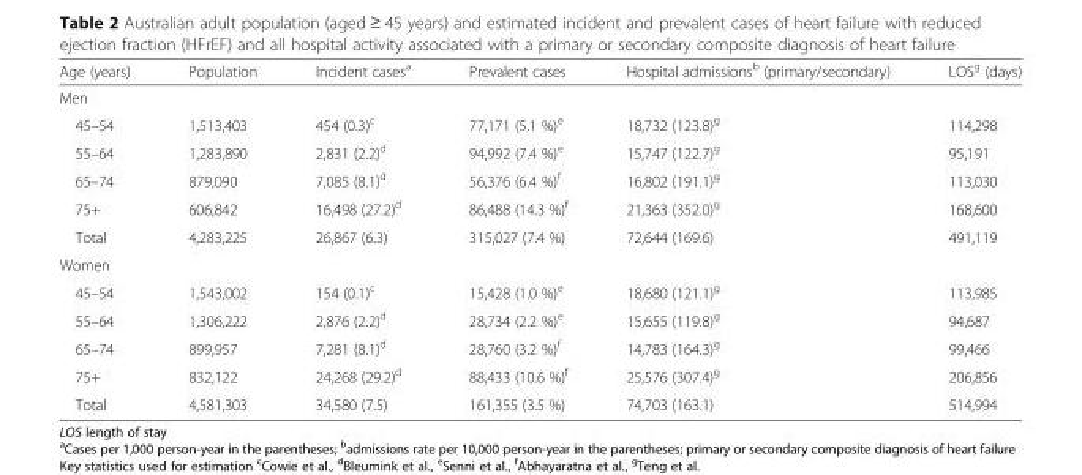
<table><thead><tr><td>Age (years)</td><td>Population</td><td>Incident cases<sup>a</sup></td><td>Prevalent cases</td><td>Hospital admissions<sup>b</sup> (primary/secondary)</td><td>LOS<sup>g</sup> (days)</td></tr></thead><tbody><tr><td colspan="6">Men</td></tr><tr><td>45–54</td><td>1,513,403</td><td>454 (0.3)<sup>c</sup></td><td>77,171 (5.1 %)<sup>e</sup></td><td>18,732 (123.8)<sup>g</sup></td><td>114,298</td></tr><tr><td>55–64</td><td>1,283,890</td><td>2,831 (2.2)<sup>d</sup></td><td>94,992 (7.4 %)<sup>e</sup></td><td>15,747 (122.7)<sup>g</sup></td><td>95,191</td></tr><tr><td>65–74</td><td>879,090</td><td>7,085 (8.1)<sup>d</sup></td><td>56,376 (6.4 %)<sup>f</sup></td><td>16,802 (191.1)<sup>g</sup></td><td>113,030</td></tr><tr><td>75+</td><td>606,842</td><td>16,498 (27.2)<sup>d</sup></td><td>86,488 (14.3 %)<sup>f</sup></td><td>21,363 (352.0)<sup>g</sup></td><td>168,600</td></tr><tr><td>Total</td><td>4,283,225</td><td>26,867 (6.3)</td><td>315,027 (7.4 %)</td><td>72,644 (169.6)</td><td>491,119</td></tr><tr><td colspan="6">Women</td></tr><tr><td>45–54</td><td>1,543,002</td><td>154 (0.1)<sup>c</sup></td><td>15,428 (1.0 %)<sup>e</sup></td><td>18,680 (121.1)<sup>g</sup></td><td>113,985</td></tr><tr><td>55–64</td><td>1,306,222</td><td>2,876 (2.2)<sup>d</sup></td><td>28,734 (2.2 %)<sup>e</sup></td><td>15,655 (119.8)<sup>g</sup></td><td>94,687</td></tr><tr><td>65–74</td><td>899,957</td><td>7,281 (8.1)<sup>d</sup></td><td>28,760 (3.2 %)<sup>f</sup></td><td>14,783 (164.3)<sup>g</sup></td><td>99,466</td></tr><tr><td>75+</td><td>832,122</td><td>24,268 (29.2)<sup>d</sup></td><td>88,433 (10.6 %)<sup>f</sup></td><td>25,576 (307.4)<sup>g</sup></td><td>206,856</td></tr><tr><td>Total</td><td>4,581,303</td><td>34,580 (7.5)</td><td>161,355 (3.5 %)</td><td>74,703 (163.1)</td><td>514,994</td></tr></tbody></table>